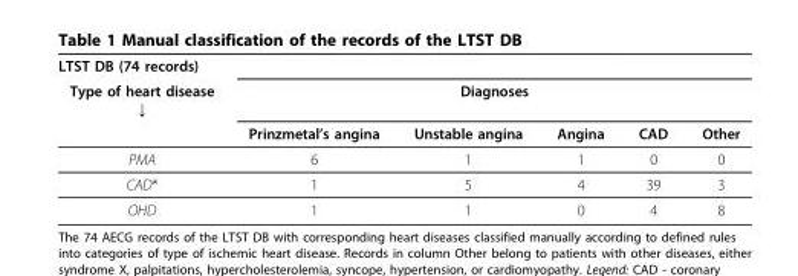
<table><thead><tr><td colspan="6">LTST DB (74 records)</td></tr><tr><td rowspan="2">Type of heart disease ↓</td><td colspan="5">Diagnoses</td></tr><tr><td>Prinzmetal’s angina</td><td>Unstable angina</td><td>Angina</td><td>CAD</td><td>Other</td></tr></thead><tbody><tr><td>PMA</td><td>6</td><td>1</td><td>1</td><td>0</td><td>0</td></tr><tr><td>CAD*</td><td>1</td><td>5</td><td>4</td><td>39</td><td>3</td></tr><tr><td>OHD</td><td>1</td><td>1</td><td>0</td><td>4</td><td>8</td></tr></tbody></table>